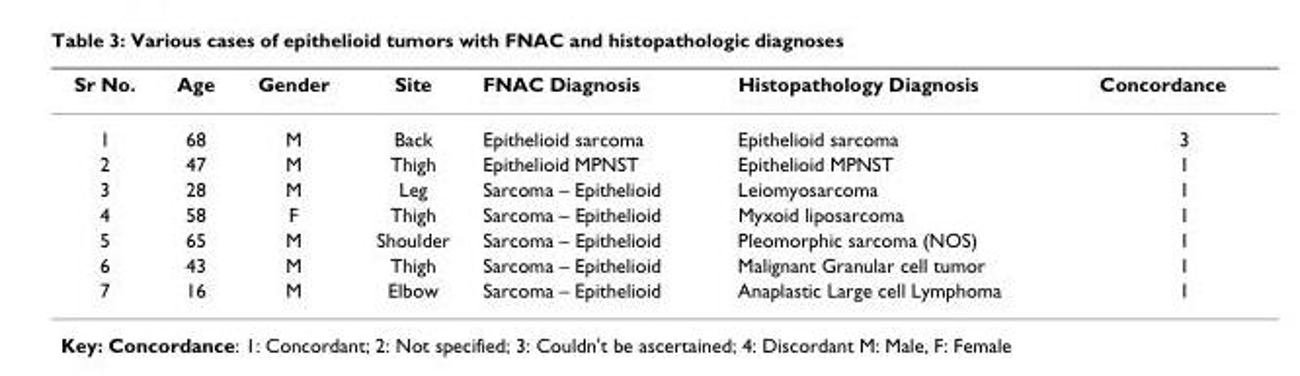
<table><thead><tr><td>Sr No.</td><td>Age</td><td>Gender</td><td>Site</td><td>FNAC Diagnosis</td><td>Histopathology Diagnosis</td><td>Concordance</td></tr></thead><tbody><tr><td>1</td><td>68</td><td>M</td><td>Back</td><td>Epithelioid sarcoma</td><td>Epithelioid sarcoma</td><td>3</td></tr><tr><td>2</td><td>47</td><td>M</td><td>Thigh</td><td>Epithelioid MPNST</td><td>Epithelioid MPNST</td><td>1</td></tr><tr><td>3</td><td>28</td><td>M</td><td>Leg</td><td>Sarcoma – Epithelioid</td><td>Leiomyosarcoma</td><td>1</td></tr><tr><td>4</td><td>58</td><td>F</td><td>Thigh</td><td>Sarcoma – Epithelioid</td><td>Myxoid liposarcoma</td><td>1</td></tr><tr><td>5</td><td>65</td><td>M</td><td>Shoulder</td><td>Sarcoma – Epithelioid</td><td>Pleomorphic sarcoma (NOS)</td><td>1</td></tr><tr><td>6</td><td>43</td><td>M</td><td>Thigh</td><td>Sarcoma – Epithelioid</td><td>Malignant Granular cell tumor</td><td>1</td></tr><tr><td>7</td><td>16</td><td>M</td><td>Elbow</td><td>Sarcoma – Epithelioid</td><td>Anaplastic Large cell Lymphoma</td><td>1</td></tr></tbody></table>